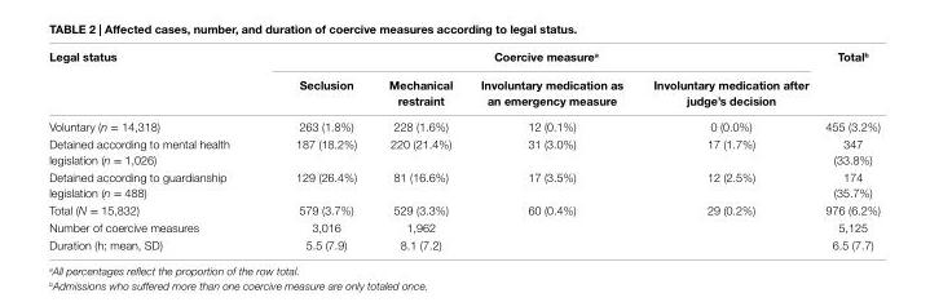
<table><thead><tr><td rowspan="2">legal status</td><td colspan="4">coercive measure<sup>a</sup></td><td rowspan="2">Total<sup>b</sup></td></tr><tr><td>seclusion</td><td>Mechanical restraint</td><td>involuntary medication as an emergency measure</td><td>involuntary medication after judge’s decision</td></tr></thead><tbody><tr><td>Voluntary (n = 14,318)</td><td>263 (1.8%)</td><td>228 (1.6%)</td><td>12 (0.1%)</td><td>0 (0.0%)</td><td>455 (3.2%)</td></tr><tr><td>Detained according to mental health legislation (n = 1,026)</td><td>187 (18.2%)</td><td>220 (21.4%)</td><td>31 (3.0%)</td><td>17 (1.7%)</td><td>347 (33.8%)</td></tr><tr><td>Detained according to guardianship legislation (n = 488)</td><td>129 (26.4%)</td><td>81 (16.6%)</td><td>17 (3.5%)</td><td>12 (2.5%)</td><td>174 (35.7%)</td></tr><tr><td>Total (N = 15,832)</td><td>579 (3.7%)</td><td>529 (3.3%)</td><td>60 (0.4%)</td><td>29 (0.2%)</td><td>976 (6.2%)</td></tr><tr><td>Number of coercive measures</td><td>3,016</td><td>1,962</td><td></td><td></td><td>5,125</td></tr><tr><td>Duration (h; mean, SD)</td><td>5.5 (7.9)</td><td>8.1 (7.2)</td><td></td><td></td><td>6.5 (7.7)</td></tr></tbody></table>